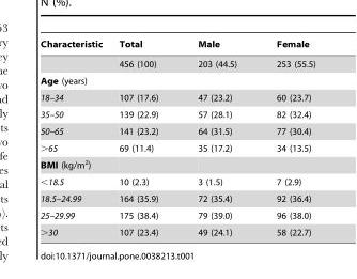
<table><thead><tr><td>Characteristic</td><td>Total</td><td>Male</td><td>Female</td></tr></thead><tbody><tr><td></td><td>456 (100)</td><td>203 (44.5)</td><td>253 (55.5)</td></tr><tr><td colspan="4">Age (years)</td></tr><tr><td>18–34</td><td>107 (17.6)</td><td>47 (23.2)</td><td>60 (23.7)</td></tr><tr><td>35–50</td><td>139 (22.9)</td><td>57 (28.1)</td><td>82 (32.4)</td></tr><tr><td>50–65</td><td>141 (23.2)</td><td>64 (31.5)</td><td>77 (30.4)</td></tr><tr><td>&gt;65</td><td>69 (11.4)</td><td>35 (17.2)</td><td>34 (13.5)</td></tr><tr><td colspan="4">BMI (kg/m<sup>2</sup>)</td></tr><tr><td>&lt;18.5</td><td>10 (2.3)</td><td>3 (1.5)</td><td>7 (2.9)</td></tr><tr><td>18.5–24.99</td><td>164 (35.9)</td><td>72 (35.4)</td><td>92 (36.4)</td></tr><tr><td>25–29.99</td><td>175 (38.4)</td><td>79 (39.0)</td><td>96 (38.0)</td></tr><tr><td>&gt;30</td><td>107 (23.4)</td><td>49 (24.1)</td><td>58 (22.7)</td></tr></tbody></table>